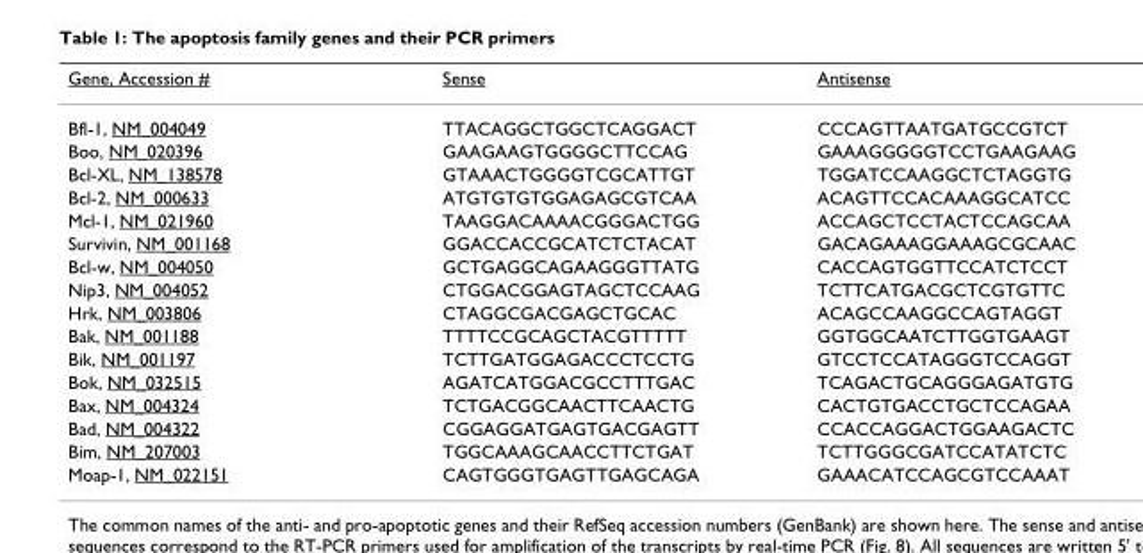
<table><thead><tr><td>Gene, Accession #</td><td>Sense</td><td>Antisense</td></tr></thead><tbody><tr><td>Bfl-1, NM_004049</td><td>TTACAGGCTGGCTCAGGACT</td><td>CCCAGTTAATGATGCCGTCT</td></tr><tr><td>Boo, NM_020396</td><td>GAAGAAGTGGGGCTTCCAG</td><td>GAAAGGGGGTCCTGAAGAAG</td></tr><tr><td>Bcl-XL, NM_138578</td><td>GTAAACTGGGGTCGCATTGT</td><td>TGGATCCAAGGCTCTAGGTG</td></tr><tr><td>Bcl-2, NM_000633</td><td>ATGTGTGTGGAGAGCGTCAA</td><td>ACAGTTCCACAAAGGCATCC</td></tr><tr><td>Mcl-1, NM_021960</td><td>TAAGGACAAAACGGGACTGG</td><td>ACCAGCTCCTACTCCAGCAA</td></tr><tr><td>Survivin, NM_001168</td><td>GGACCACCGCATCTCTACAT</td><td>GACAGAAAGGAAAGCGCAAC</td></tr><tr><td>Bcl-w, NM_004050</td><td>GCTGAGGCAGAAGGGTTATG</td><td>CACCAGTGGTTCCATCTCCT</td></tr><tr><td>Nip3, NM_004052</td><td>CTGGACGGAGTAGCTCCAAG</td><td>TCTTCATGACGCTCGTGTTC</td></tr><tr><td>Hrk, NM_003806</td><td>CTAGGCGACGAGCTGCAC</td><td>ACAGCCAAGGCCAGTAGGT</td></tr><tr><td>Bak, NM_001188</td><td>TTTTCCGCAGCTACGTTTTT</td><td>GGTGGCAATCTTGGTGAAGT</td></tr><tr><td>Bik, NM_001197</td><td>TCTTGATGGAGACCCTCCTG</td><td>GTCCTCCATAGGGTCCAGGT</td></tr><tr><td>Bok, NM_032515</td><td>AGATCATGGACGCCTTTGAC</td><td>TCAGACTGCAGGGAGATGTG</td></tr><tr><td>Bax, NM_004324</td><td>TCTGACGGCAACTTCAACTG</td><td>CACTGTGACCTGCTCCAGAA</td></tr><tr><td>Bad, NM_004322</td><td>CGGAGGATGAGTGACGAGTT</td><td>CCACCAGGACTGGAAGACTC</td></tr><tr><td>Bim, NM_207003</td><td>TGGCAAAGCAACCTTCTGAT</td><td>TCTTGGGCGATCCATATCTC</td></tr><tr><td>Moap-1, NM_022151</td><td>CAGTGGGTGAGTTGAGCAGA</td><td>GAAACATCCAGCGTCCAAAT</td></tr></tbody></table>